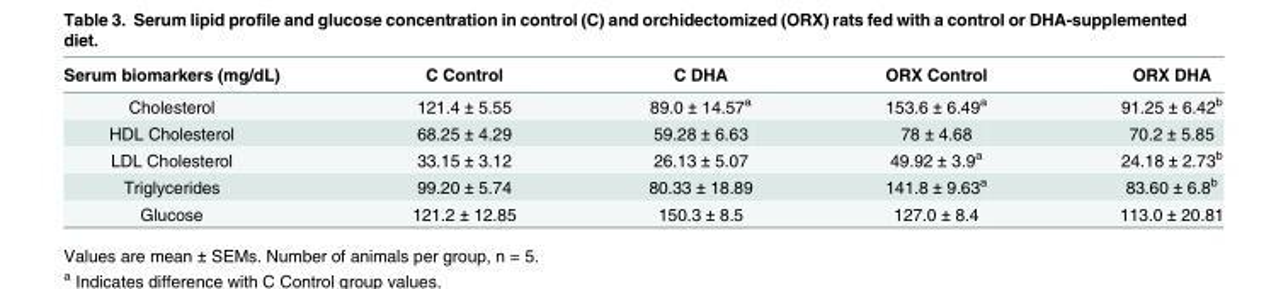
<table><thead><tr><td>Serum biomarkers (mg/dL)</td><td>C Control</td><td>C DHA</td><td>ORX Control</td><td>ORX DHA</td></tr></thead><tbody><tr><td>Cholesterol</td><td>121.4 ± 5.55</td><td>89.0 ± 14.57<sup>a</sup></td><td>153.6 ± 6.49<sup>a</sup></td><td>91.25 ± 6.42<sup>b</sup></td></tr><tr><td>HDL Cholesterol</td><td>68.25 ± 4.29</td><td>59.28 ± 6.63</td><td>78 ± 4.68</td><td>70.2 ± 5.85</td></tr><tr><td>LDL Cholesterol</td><td>33.15 ± 3.12</td><td>26.13 ± 5.07</td><td>49.92 ± 3.9<sup>a</sup></td><td>24.18 ± 2.73<sup>b</sup></td></tr><tr><td>Triglycerides</td><td>99.20 ± 5.74</td><td>80.33 ± 18.89</td><td>141.8 ± 9.63<sup>a</sup></td><td>83.60 ± 6.8<sup>b</sup></td></tr><tr><td>Glucose</td><td>121.2 ± 12.85</td><td>150.3 ± 8.5</td><td>127.0 ± 8.4</td><td>113.0 ± 20.81</td></tr></tbody></table>